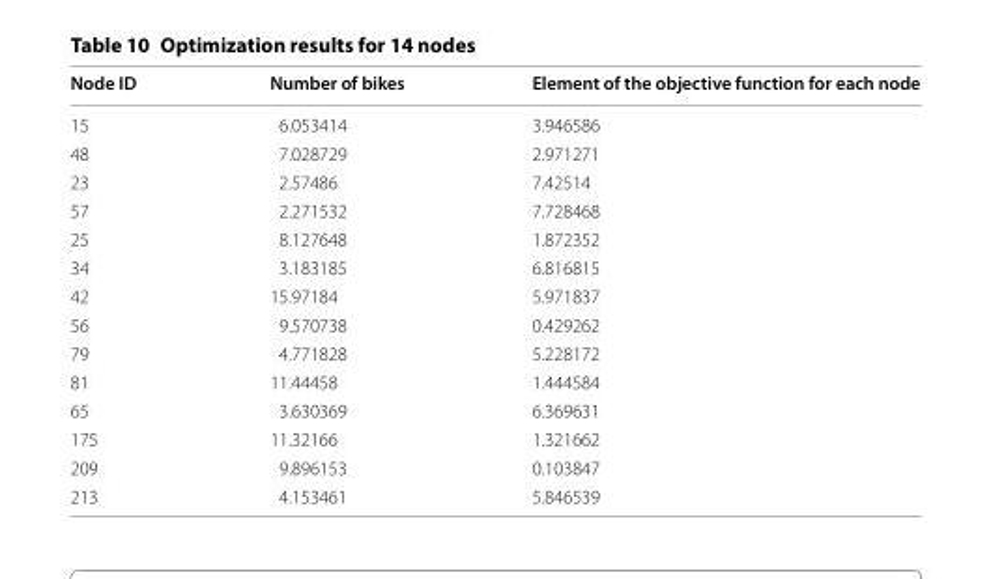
<table><thead><tr><td>Node ID</td><td>Number of bikes</td><td>Element of the objective function for each node</td></tr></thead><tbody><tr><td>15</td><td>6.053414</td><td>3.946586</td></tr><tr><td>48</td><td>7.028729</td><td>2.971271</td></tr><tr><td>23</td><td>2.57486</td><td>7.42514</td></tr><tr><td>57</td><td>2.271532</td><td>7.728468</td></tr><tr><td>25</td><td>8.127648</td><td>1.872352</td></tr><tr><td>34</td><td>3.183185</td><td>6.816815</td></tr><tr><td>42</td><td>15.97184</td><td>5.971837</td></tr><tr><td>56</td><td>9.570738</td><td>0.429262</td></tr><tr><td>79</td><td>4.771828</td><td>5.228172</td></tr><tr><td>81</td><td>11.44458</td><td>1.444584</td></tr><tr><td>65</td><td>3.630369</td><td>6.369631</td></tr><tr><td>175</td><td>11.32166</td><td>1.321662</td></tr><tr><td>209</td><td>9.896153</td><td>0.103847</td></tr><tr><td>213</td><td>4.153461</td><td>5.846539</td></tr></tbody></table>